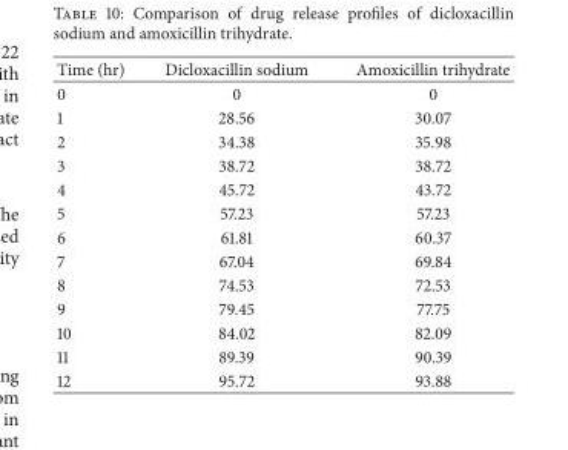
<table><thead><tr><td>Time (hr)</td><td>Dicloxacillin sodium</td><td>Amoxicillin trihydrate</td></tr></thead><tbody><tr><td>0</td><td>0</td><td>0</td></tr><tr><td>1</td><td>28.56</td><td>30.07</td></tr><tr><td>2</td><td>34.38</td><td>35.98</td></tr><tr><td>3</td><td>38.72</td><td>38.72</td></tr><tr><td>4</td><td>45.72</td><td>43.72</td></tr><tr><td>5</td><td>57.23</td><td>57.23</td></tr><tr><td>6</td><td>61.81</td><td>60.37</td></tr><tr><td>7</td><td>67.04</td><td>69.84</td></tr><tr><td>8</td><td>74.53</td><td>72.53</td></tr><tr><td>9</td><td>79.45</td><td>77.75</td></tr><tr><td>10</td><td>84.02</td><td>82.09</td></tr><tr><td>11</td><td>89.39</td><td>90.39</td></tr><tr><td>12</td><td>95.72</td><td>93.88</td></tr></tbody></table>